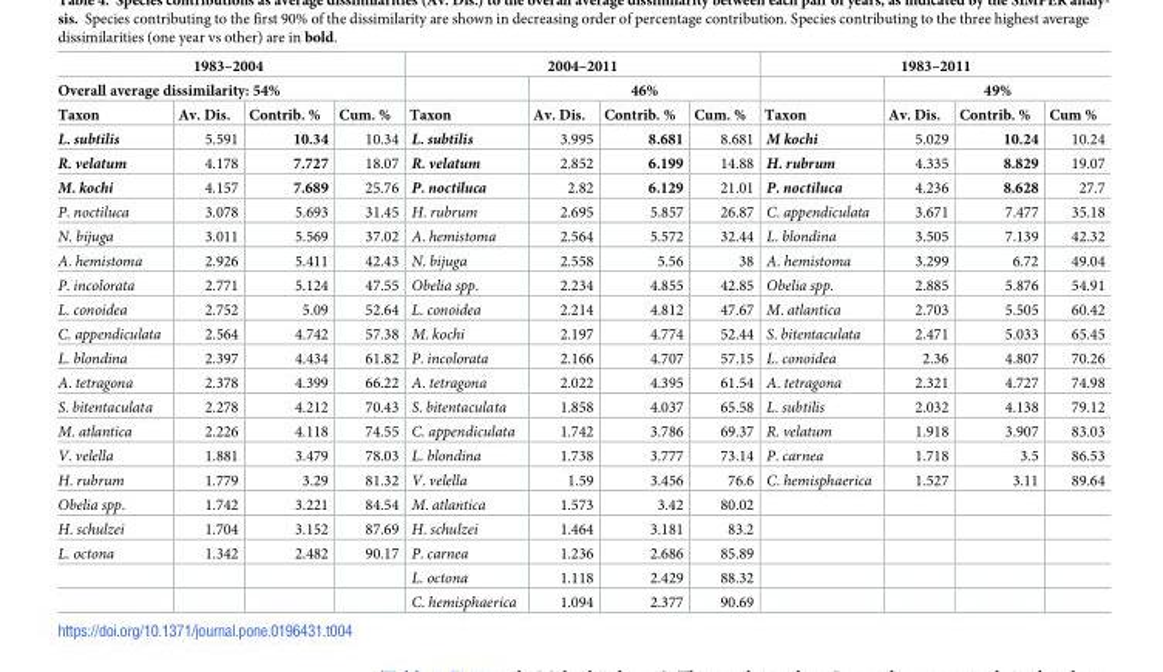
<table><thead><tr><td rowspan="2" colspan="4">1983–2004 Overall average dissimilarity: 54%</td><td colspan="4">2004–2011</td><td colspan="4">1983–2011</td></tr><tr><td rowspan="2">Taxon</td><td colspan="3">46%</td><td rowspan="2">Taxon</td><td colspan="3">49%</td></tr><tr><td>Taxon</td><td>Av. Dis.</td><td>Contrib. %</td><td>Cum. %</td><td>Av. Dis.</td><td>Contrib. %</td><td>Cum. %</td><td>Av. Dis.</td><td>Contrib. %</td><td>Cum %</td></tr></thead><tbody><tr><td>L. subtilis</td><td>5.591</td><td>10.34</td><td>10.34</td><td>L. subtilis</td><td>3.995</td><td>8.681</td><td>8.681</td><td>M kochi</td><td>5.029</td><td>10.24</td><td>10.24</td></tr><tr><td>R. velatum</td><td>4.178</td><td>7.727</td><td>18.07</td><td>R. velatum</td><td>2.852</td><td>6.199</td><td>14.88</td><td>H. rubrum</td><td>4.335</td><td>8.829</td><td>19.07</td></tr><tr><td>M. kochi</td><td>4.157</td><td>7.689</td><td>25.76</td><td>P. noctiluca</td><td>2.82</td><td>6.129</td><td>21.01</td><td>P. noctiluca</td><td>4.236</td><td>8.628</td><td>27.7</td></tr><tr><td>P. noctiluca</td><td>3.078</td><td>5.693</td><td>31.45</td><td>H. rubrum</td><td>2.695</td><td>5.857</td><td>26.87</td><td>C. appendiculata</td><td>3.671</td><td>7.477</td><td>35.18</td></tr><tr><td>N. bijuga</td><td>3.011</td><td>5.569</td><td>37.02</td><td>A. hemistoma</td><td>2.564</td><td>5.572</td><td>32.44</td><td>L. blondina</td><td>3.505</td><td>7.139</td><td>42.32</td></tr><tr><td>A. hemistoma</td><td>2.926</td><td>5.411</td><td>42.43</td><td>N. bijuga</td><td>2.558</td><td>5.56</td><td>38</td><td>A. hemistoma</td><td>3.299</td><td>6.72</td><td>49.04</td></tr><tr><td>P. incolorata</td><td>2.771</td><td>5.124</td><td>47.55</td><td>Obelia spp.</td><td>2.234</td><td>4.855</td><td>42.85</td><td>Obelia spp.</td><td>2.885</td><td>5.876</td><td>54.91</td></tr><tr><td>L. conoidea</td><td>2.752</td><td>5.09</td><td>52.64</td><td>L. conoidea</td><td>2.214</td><td>4.812</td><td>47.67</td><td>M. atlantica</td><td>2.703</td><td>5.505</td><td>60.42</td></tr><tr><td>C. appendiculata</td><td>2.564</td><td>4.742</td><td>57.38</td><td>M. kochi</td><td>2.197</td><td>4.774</td><td>52.44</td><td>S. bitentaculata</td><td>2.471</td><td>5.033</td><td>65.45</td></tr><tr><td>L. blondina</td><td>2.397</td><td>4.434</td><td>61.82</td><td>P. incolorata</td><td>2.166</td><td>4.707</td><td>57.15</td><td>L. conoidea</td><td>2.36</td><td>4.807</td><td>70.26</td></tr><tr><td>A. tetragona</td><td>2.378</td><td>4.399</td><td>66.22</td><td>A. tetragona</td><td>2.022</td><td>4.395</td><td>61.54</td><td>A. tetragona</td><td>2.321</td><td>4.727</td><td>74.98</td></tr><tr><td>S. bitentaculata</td><td>2.278</td><td>4.212</td><td>70.43</td><td>S. bitentaculata</td><td>1.858</td><td>4.037</td><td>65.58</td><td>L. subtilis</td><td>2.032</td><td>4.138</td><td>79.12</td></tr><tr><td>M. atlantica</td><td>2.226</td><td>4.118</td><td>74.55</td><td>C. appendiculata</td><td>1.742</td><td>3.786</td><td>69.37</td><td>R. velatum</td><td>1.918</td><td>3.907</td><td>83.03</td></tr><tr><td>V. velella</td><td>1.881</td><td>3.479</td><td>78.03</td><td>L. blondina</td><td>1.738</td><td>3.777</td><td>73.14</td><td>P. carnea</td><td>1.718</td><td>3.5</td><td>86.53</td></tr><tr><td>H. rubrum</td><td>1.779</td><td>3.29</td><td>81.32</td><td>V. velella</td><td>1.59</td><td>3.456</td><td>76.6</td><td>C. hemisphaerica</td><td>1.527</td><td>3.11</td><td>89.64</td></tr><tr><td>Obelia spp.</td><td>1.742</td><td>3.221</td><td>84.54</td><td>M. atlantica</td><td>1.573</td><td>3.42</td><td>80.02</td><td></td><td></td><td></td><td></td></tr><tr><td>H. schulzei</td><td>1.704</td><td>3.152</td><td>87.69</td><td>H. schulzei</td><td>1.464</td><td>3.181</td><td>83.2</td><td></td><td></td><td></td><td></td></tr><tr><td rowspan="3">L. octona</td><td>1.342</td><td>2.482</td><td>90.17</td><td>P. carnea</td><td>1.236</td><td>2.686</td><td>85.89</td><td></td><td></td><td></td><td></td></tr><tr><td></td><td></td><td></td><td>L. octona</td><td>1.118</td><td>2.429</td><td>88.32</td><td></td><td></td><td></td><td></td></tr><tr><td></td><td></td><td></td><td>C. hemisphaerica</td><td>1.094</td><td>2.377</td><td>90.69</td><td></td><td></td><td></td><td></td></tr></tbody></table>